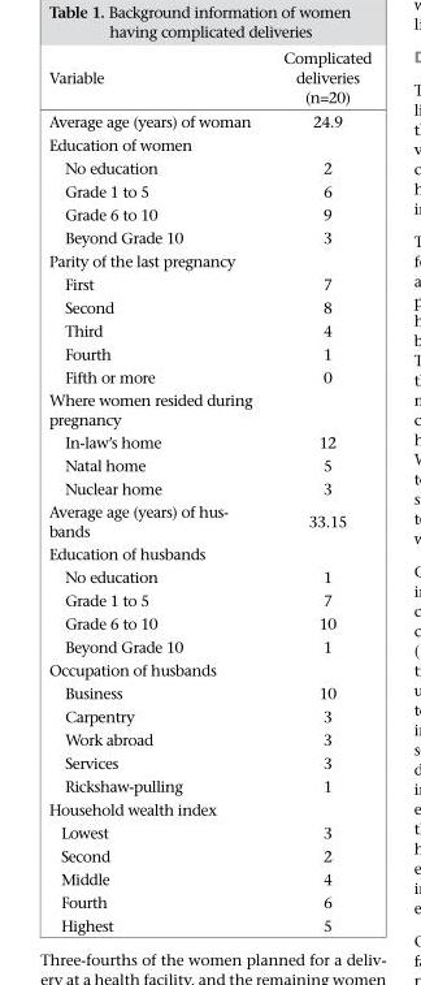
<table><thead><tr><td>Variable</td><td>Complicated deliveries (n=20)</td></tr></thead><tbody><tr><td>Average age (years) of woman</td><td>24.9</td></tr><tr><td colspan="2">Education of women</td></tr><tr><td>No education</td><td>2</td></tr><tr><td>Grade 1 to 5</td><td>6</td></tr><tr><td>Grade 6 to 10</td><td>9</td></tr><tr><td>Beyond Grade 10</td><td>3</td></tr><tr><td colspan="2">Parity of the last pregnancy</td></tr><tr><td>First</td><td>7</td></tr><tr><td>Second</td><td>8</td></tr><tr><td>Third</td><td>4</td></tr><tr><td>Fourth</td><td>1</td></tr><tr><td>Fifth or more</td><td>0</td></tr><tr><td colspan="2">Where women resided during pregnancy</td></tr><tr><td>In-law’s home</td><td>12</td></tr><tr><td>Natal home</td><td>5</td></tr><tr><td>Nuclear home</td><td>3</td></tr><tr><td>Average age (years) of hus- bands</td><td>33.15</td></tr><tr><td colspan="2">Education of husbands</td></tr><tr><td>No education</td><td>1</td></tr><tr><td>Grade 1 to 5</td><td>7</td></tr><tr><td>Grade 6 to 10</td><td>10</td></tr><tr><td>Beyond Grade 10</td><td>1</td></tr><tr><td colspan="2">Occupation of husbands</td></tr><tr><td>Business</td><td>10</td></tr><tr><td>Carpentry</td><td>3</td></tr><tr><td>Work abroad</td><td>3</td></tr><tr><td>Services</td><td>3</td></tr><tr><td>Rickshaw-pulling</td><td>1</td></tr><tr><td colspan="2">Household wealth index</td></tr><tr><td>Lowest</td><td>3</td></tr><tr><td>Second</td><td>2</td></tr><tr><td>Middle</td><td>4</td></tr><tr><td>Fourth</td><td>6</td></tr><tr><td>Highest</td><td>5</td></tr></tbody></table>